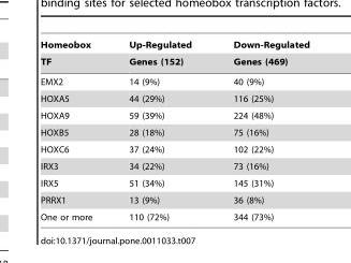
<table><thead><tr><td rowspan="2">Homeobox TF</td><td rowspan="2">Up-Regulated Genes (152)</td><td rowspan="2">Down-Regulated Genes (469)</td></tr><tr></tr></thead><tbody><tr><td>EMX2</td><td>14 (9%)</td><td>40 (9%)</td></tr><tr><td>HOXA5</td><td>44 (29%)</td><td>116 (25%)</td></tr><tr><td>HOXA9</td><td>59 (39%)</td><td>224 (48%)</td></tr><tr><td>HOXB5</td><td>28 (18%)</td><td>75 (16%)</td></tr><tr><td>HOXC6</td><td>37 (24%)</td><td>102 (22%)</td></tr><tr><td>IRX3</td><td>34 (22%)</td><td>73 (16%)</td></tr><tr><td>IRX5</td><td>51 (34%)</td><td>145 (31%)</td></tr><tr><td>PRRX1</td><td>13 (9%)</td><td>36 (8%)</td></tr><tr><td>One or more</td><td>110 (72%)</td><td>344 (73%)</td></tr></tbody></table>